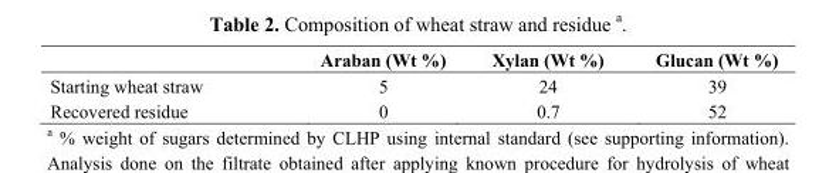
<table><thead><tr><td></td><td>Araban (Wt %)</td><td>Xylan (Wt %)</td><td>Glucan (Wt %)</td></tr></thead><tbody><tr><td>Starting wheat straw</td><td>5</td><td>24</td><td>39</td></tr><tr><td>Recovered residue</td><td>0</td><td>0.7</td><td>52</td></tr></tbody></table>